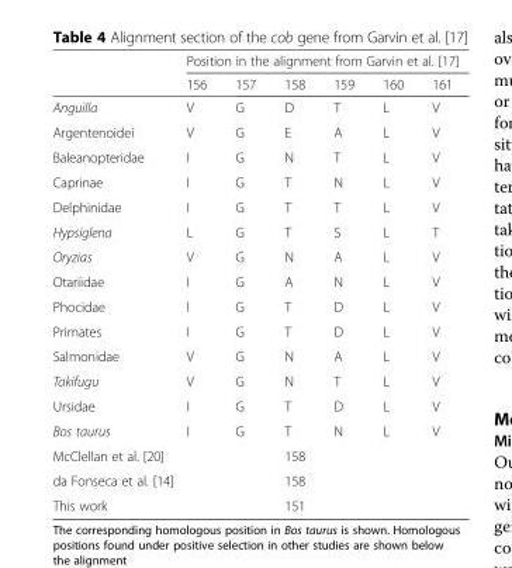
<table><thead><tr><td rowspan="2"></td><td colspan="6">Position in the alignment from Garvin et al. [17]</td></tr><tr><td>156</td><td>157</td><td>158</td><td>159</td><td>160</td><td>161</td></tr></thead><tbody><tr><td>Anguilla</td><td>V</td><td>G</td><td>D</td><td>T</td><td>L</td><td>V</td></tr><tr><td>Argentenoidei</td><td>V</td><td>G</td><td>E</td><td>A</td><td>L</td><td>V</td></tr><tr><td>Baleanopteridae</td><td>I</td><td>G</td><td>N</td><td>T</td><td>L</td><td>V</td></tr><tr><td>Caprinae</td><td>I</td><td>G</td><td>T</td><td>N</td><td>L</td><td>V</td></tr><tr><td>Delphinidae</td><td>I</td><td>G</td><td>T</td><td>T</td><td>L</td><td>V</td></tr><tr><td>Hypsiglena</td><td>L</td><td>G</td><td>T</td><td>S</td><td>L</td><td>T</td></tr><tr><td>Oryzias</td><td>V</td><td>G</td><td>N</td><td>A</td><td>L</td><td>V</td></tr><tr><td>Otariidae</td><td>I</td><td>G</td><td>A</td><td>N</td><td>L</td><td>V</td></tr><tr><td>Phocidae</td><td>I</td><td>G</td><td>T</td><td>D</td><td>L</td><td>V</td></tr><tr><td>Primates</td><td>I</td><td>G</td><td>T</td><td>D</td><td>L</td><td>V</td></tr><tr><td>Salmonidae</td><td>V</td><td>G</td><td>N</td><td>A</td><td>L</td><td>V</td></tr><tr><td>Takifugu</td><td>V</td><td>G</td><td>N</td><td>T</td><td>L</td><td>V</td></tr><tr><td>Ursidae</td><td>I</td><td>G</td><td>T</td><td>D</td><td>L</td><td>V</td></tr><tr><td>Bos taurus</td><td>I</td><td>G</td><td>T</td><td>N</td><td>L</td><td>V</td></tr><tr><td>McClellan et al. [20]</td><td></td><td></td><td>158</td><td></td><td></td><td></td></tr><tr><td>da Fonseca et al. [14]</td><td></td><td></td><td>158</td><td></td><td></td><td></td></tr><tr><td>This work</td><td></td><td></td><td>151</td><td></td><td></td><td></td></tr></tbody></table>